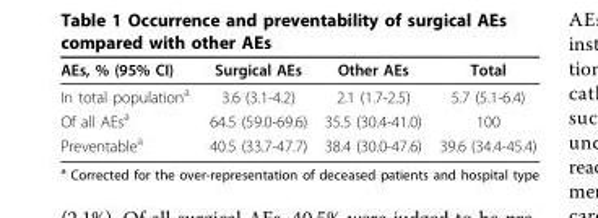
<table><thead><tr><td>AEs, % (95% CI)</td><td>Surgical AEs</td><td>Other AEs</td><td>Total</td></tr></thead><tbody><tr><td>In total population<sup>a</sup></td><td>3.6 (3.1-4.2)</td><td>2.1 (1.7-2.5)</td><td>5.7 (5.1-6.4)</td></tr><tr><td>Of all AEs<sup>a</sup></td><td>64.5 (59.0-69.6)</td><td>35.5 (30.4-41.0)</td><td>100</td></tr><tr><td>Preventable<sup>a</sup></td><td>40.5 (33.7-47.7)</td><td>38.4 (30.0-47.6)</td><td>39.6 (34.4-45.4)</td></tr></tbody></table>